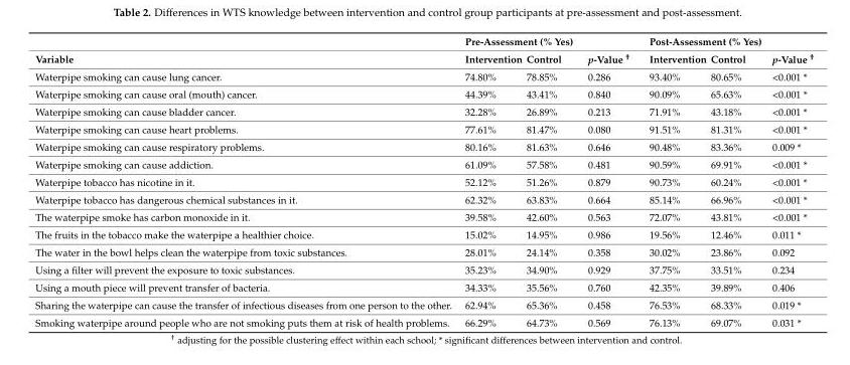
<table><thead><tr><td rowspan="2">Variable</td><td colspan="3">Pre-Assessment (% Yes)</td><td colspan="3">Post-Assessment (% Yes)</td></tr><tr><td>Intervention</td><td>Control</td><td>p-Value <sup>†</sup></td><td>Intervention</td><td>Control</td><td>p-Value <sup>†</sup></td></tr></thead><tbody><tr><td>Waterpipe smoking can cause lung cancer.</td><td>74.80%</td><td>78.85%</td><td>0.286</td><td>93.40%</td><td>80.65%</td><td>&lt;0.001 *</td></tr><tr><td>Waterpipe smoking can cause oral (mouth) cancer.</td><td>44.39%</td><td>43.41%</td><td>0.840</td><td>90.09%</td><td>65.63%</td><td>&lt;0.001 *</td></tr><tr><td>Waterpipe smoking can cause bladder cancer.</td><td>32.28%</td><td>26.89%</td><td>0.213</td><td>71.91%</td><td>43.18%</td><td>&lt;0.001 *</td></tr><tr><td>Waterpipe smoking can cause heart problems.</td><td>77.61%</td><td>81.47%</td><td>0.080</td><td>91.51%</td><td>81.31%</td><td>&lt;0.001 *</td></tr><tr><td>Waterpipe smoking can cause respiratory problems.</td><td>80.16%</td><td>81.63%</td><td>0.646</td><td>90.48%</td><td>83.36%</td><td>0.009 *</td></tr><tr><td>Waterpipe smoking can cause addiction.</td><td>61.09%</td><td>57.58%</td><td>0.481</td><td>90.59%</td><td>69.91%</td><td>&lt;0.001 *</td></tr><tr><td>Waterpipe tobacco has nicotine in it.</td><td>52.12%</td><td>51.26%</td><td>0.879</td><td>90.73%</td><td>60.24%</td><td>&lt;0.001 *</td></tr><tr><td>Waterpipe tobacco has dangerous chemical substances in it.</td><td>62.32%</td><td>63.83%</td><td>0.664</td><td>85.14%</td><td>66.96%</td><td>&lt;0.001 *</td></tr><tr><td>The waterpipe smoke has carbon monoxide in it.</td><td>39.58%</td><td>42.60%</td><td>0.563</td><td>72.07%</td><td>43.81%</td><td>&lt;0.001 *</td></tr><tr><td>The fruits in the tobacco make the waterpipe a healthier choice.</td><td>15.02%</td><td>14.95%</td><td>0.986</td><td>19.56%</td><td>12.46%</td><td>0.011 *</td></tr><tr><td>The water in the bowl helps clean the waterpipe from toxic substances.</td><td>28.01%</td><td>24.14%</td><td>0.358</td><td>30.02%</td><td>23.86%</td><td>0.092</td></tr><tr><td>Using a filter will prevent the exposure to toxic substances.</td><td>35.23%</td><td>34.90%</td><td>0.929</td><td>37.75%</td><td>33.51%</td><td>0.234</td></tr><tr><td>Using a mouth piece will prevent transfer of bacteria.</td><td>34.33%</td><td>35.56%</td><td>0.760</td><td>42.35%</td><td>39.89%</td><td>0.406</td></tr><tr><td>Sharing the waterpipe can cause the transfer of infectious diseases from one person to the other.</td><td>62.94%</td><td>65.36%</td><td>0.458</td><td>76.53%</td><td>68.33%</td><td>0.019 *</td></tr><tr><td>Smoking waterpipe around people who are not smoking puts them at risk of health problems.</td><td>66.29%</td><td>64.73%</td><td>0.569</td><td>76.13%</td><td>69.07%</td><td>0.031 *</td></tr></tbody></table>